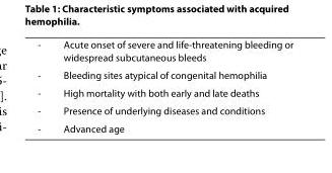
<table><tbody><tr><td>-</td><td>Acute onset of severe and life-threatening bleeding or widespread subcutaneous bleeds</td></tr><tr><td>-</td><td>Bleeding sites atypical of congenital hemophilia</td></tr><tr><td>-</td><td>High mortality with both early and late deaths</td></tr><tr><td>-</td><td>Presence of underlying diseases and conditions</td></tr><tr><td>-</td><td>Advanced age</td></tr></tbody></table>